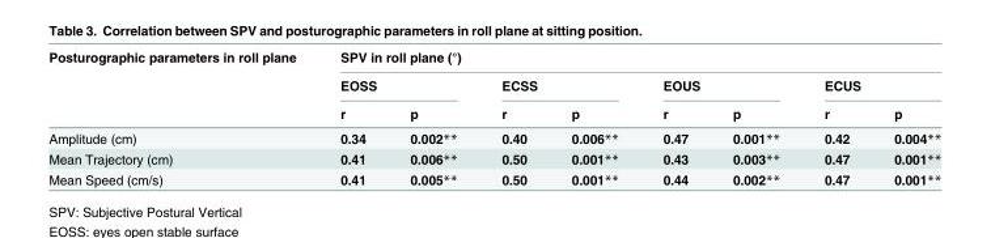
<table><thead><tr><td rowspan="3">Posturographic parameters in roll plane</td><td colspan="8">SPV in roll plane (°)</td></tr><tr><td colspan="2">EOSS</td><td colspan="2">ECSS</td><td colspan="2">EOUS</td><td colspan="2">ECUS</td></tr><tr><td>r</td><td>p</td><td>r</td><td>p</td><td>r</td><td>p</td><td>r</td><td>p</td></tr></thead><tbody><tr><td>Amplitude (cm)</td><td>0.34</td><td>0.002**</td><td>0.40</td><td>0.006**</td><td>0.47</td><td>0.001**</td><td>0.42</td><td>0.004**</td></tr><tr><td>Mean Trajectory (cm)</td><td>0.41</td><td>0.006**</td><td>0.50</td><td>0.001**</td><td>0.43</td><td>0.003**</td><td>0.47</td><td>0.001**</td></tr><tr><td>Mean Speed (cm/s)</td><td>0.41</td><td>0.005**</td><td>0.50</td><td>0.001**</td><td>0.44</td><td>0.002**</td><td>0.47</td><td>0.001**</td></tr></tbody></table>